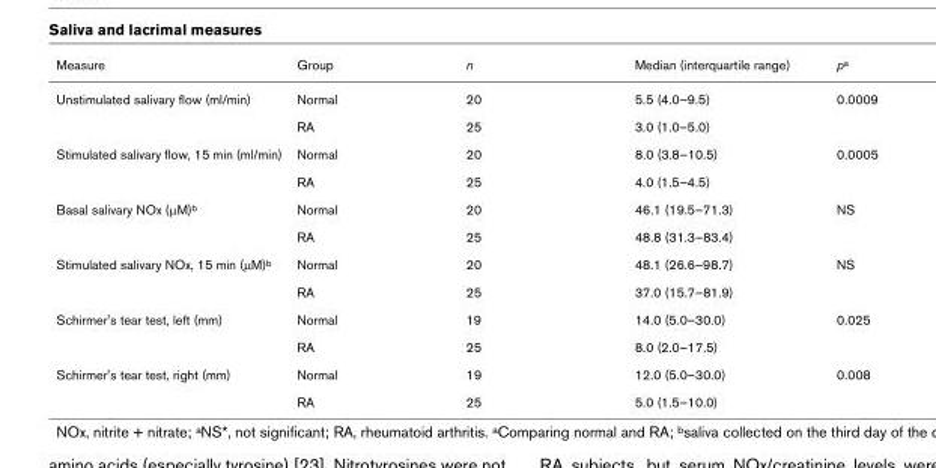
<table><thead><tr><td>Measure</td><td>Group</td><td>n</td><td>Median (interquartile range)</td><td>pa</td></tr></thead><tbody><tr><td rowspan="2">Unstimulated salivary flow (ml/min)</td><td>Normal</td><td>20</td><td>5.5 (4.0–9.5)</td><td>0.0009</td></tr><tr><td>RA</td><td>25</td><td>3.0 (1.0–5.0)</td><td></td></tr><tr><td rowspan="2">Stimulated salivary flow, 15 min (ml/min)</td><td>Normal</td><td>20</td><td>8.0 (3.8–10.5)</td><td>0.0005</td></tr><tr><td>RA</td><td>25</td><td>4.0 (1.5–4.5)</td><td></td></tr><tr><td rowspan="2">Basal salivary NOx (µM)b</td><td>Normal</td><td>20</td><td>46.1 (19.5–71.3)</td><td>NS</td></tr><tr><td>RA</td><td>25</td><td>48.8 (31.3–83.4)</td><td></td></tr><tr><td rowspan="2">Stimulated salivary NOx, 15 min (µM)b</td><td>Normal</td><td>20</td><td>48.1 (26.6–98.7)</td><td>NS</td></tr><tr><td>RA</td><td>25</td><td>37.0 (15.7–81.9)</td><td></td></tr><tr><td rowspan="2">Schirmer&#x27;s tear test, left (mm)</td><td>Normal</td><td>19</td><td>14.0 (5.0–30.0)</td><td>0.025</td></tr><tr><td>RA</td><td>25</td><td>8.0 (2.0–17.5)</td><td></td></tr><tr><td rowspan="2">Schirmer&#x27;s tear test, right (mm)</td><td>Normal</td><td>19</td><td>12.0 (5.0–30.0)</td><td>0.008</td></tr><tr><td>RA</td><td>25</td><td>5.0 (1.5–10.0)</td><td></td></tr></tbody></table>